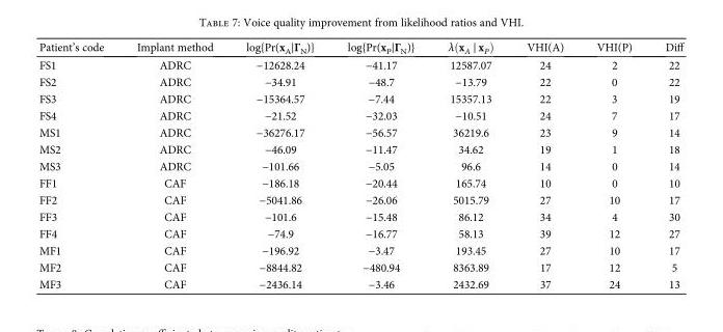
<table><thead><tr><td>Patient’s code</td><td>Implant method</td><td>log{Pr(x<sub>A</sub>∣Γ<sub>N</sub>)}</td><td>log{Pr(x<sub>P</sub>∣Γ<sub>N</sub>)}</td><td>λ xA ∣ xP</td><td>VHI(A)</td><td>VHI(P)</td><td>Diff</td></tr></thead><tbody><tr><td>FS1</td><td>ADRC</td><td>−12628.24</td><td>−41.17</td><td>12587.07</td><td>24</td><td>2</td><td>22</td></tr><tr><td>FS2</td><td>ADRC</td><td>−34.91</td><td>−48.7</td><td>−13.79</td><td>22</td><td>0</td><td>22</td></tr><tr><td>FS3</td><td>ADRC</td><td>−15364.57</td><td>−7.44</td><td>15357.13</td><td>22</td><td>3</td><td>19</td></tr><tr><td>FS4</td><td>ADRC</td><td>−21.52</td><td>−32.03</td><td>−10.51</td><td>24</td><td>7</td><td>17</td></tr><tr><td>MS1</td><td>ADRC</td><td>−36276.17</td><td>−56.57</td><td>36219.6</td><td>23</td><td>9</td><td>14</td></tr><tr><td>MS2</td><td>ADRC</td><td>−46.09</td><td>−11.47</td><td>34.62</td><td>19</td><td>1</td><td>18</td></tr><tr><td>MS3</td><td>ADRC</td><td>−101.66</td><td>−5.05</td><td>96.6</td><td>14</td><td>0</td><td>14</td></tr><tr><td>FF1</td><td>CAF</td><td>−186.18</td><td>−20.44</td><td>165.74</td><td>10</td><td>0</td><td>10</td></tr><tr><td>FF2</td><td>CAF</td><td>−5041.86</td><td>−26.06</td><td>5015.79</td><td>27</td><td>10</td><td>17</td></tr><tr><td>FF3</td><td>CAF</td><td>−101.6</td><td>−15.48</td><td>86.12</td><td>34</td><td>4</td><td>30</td></tr><tr><td>FF4</td><td>CAF</td><td>−74.9</td><td>−16.77</td><td>58.13</td><td>39</td><td>12</td><td>27</td></tr><tr><td>MF1</td><td>CAF</td><td>−196.92</td><td>−3.47</td><td>193.45</td><td>27</td><td>10</td><td>17</td></tr><tr><td>MF2</td><td>CAF</td><td>−8844.82</td><td>−480.94</td><td>8363.89</td><td>17</td><td>12</td><td>5</td></tr><tr><td>MF3</td><td>CAF</td><td>−2436.14</td><td>−3.46</td><td>2432.69</td><td>37</td><td>24</td><td>13</td></tr></tbody></table>